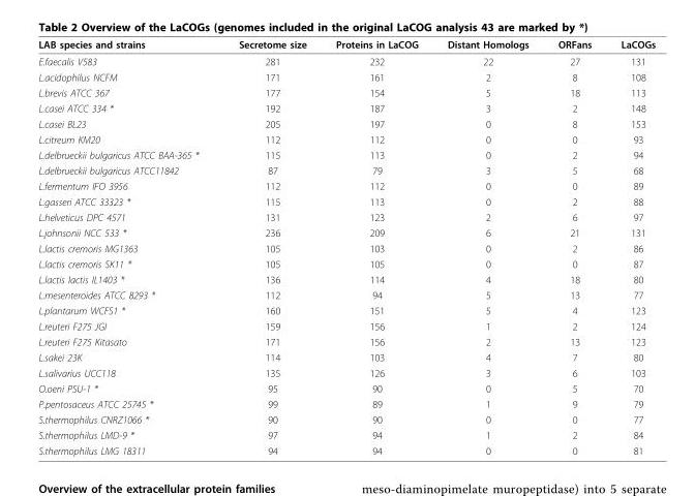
<table><thead><tr><td>LAB species and strains</td><td>Secretome size</td><td>Proteins in LaCOG</td><td>Distant Homologs</td><td>ORFans</td><td>LaCOGs</td></tr></thead><tbody><tr><td>E.faecalis V583</td><td>281</td><td>232</td><td>22</td><td>27</td><td>131</td></tr><tr><td>L.acidophilus NCFM</td><td>171</td><td>161</td><td>2</td><td>8</td><td>108</td></tr><tr><td>L.brevis ATCC 367</td><td>177</td><td>154</td><td>5</td><td>18</td><td>113</td></tr><tr><td>L.casei ATCC 334 *</td><td>192</td><td>187</td><td>3</td><td>2</td><td>148</td></tr><tr><td>L.casei BL23</td><td>205</td><td>197</td><td>0</td><td>8</td><td>153</td></tr><tr><td>L.citreum KM20</td><td>112</td><td>112</td><td>0</td><td>0</td><td>93</td></tr><tr><td>L.delbrueckii bulgaricus ATCC BAA-365 *</td><td>115</td><td>113</td><td>0</td><td>2</td><td>94</td></tr><tr><td>L.delbrueckii bulgaricus ATCC11842</td><td>87</td><td>79</td><td>3</td><td>5</td><td>68</td></tr><tr><td>L.fermentum IFO 3956</td><td>112</td><td>112</td><td>0</td><td>0</td><td>89</td></tr><tr><td>L.gasseri ATCC 33323 *</td><td>115</td><td>113</td><td>0</td><td>2</td><td>88</td></tr><tr><td>L.helveticus DPC 4571</td><td>131</td><td>123</td><td>2</td><td>6</td><td>97</td></tr><tr><td>L.johnsonii NCC 533 *</td><td>236</td><td>209</td><td>6</td><td>21</td><td>131</td></tr><tr><td>L.lactis cremoris MG1363</td><td>105</td><td>103</td><td>0</td><td>2</td><td>86</td></tr><tr><td>L.lactis cremoris SK11 *</td><td>105</td><td>105</td><td>0</td><td>0</td><td>87</td></tr><tr><td>L.lactis lactis IL1403 *</td><td>136</td><td>114</td><td>4</td><td>18</td><td>80</td></tr><tr><td>L.mesenteroides ATCC 8293 *</td><td>112</td><td>94</td><td>5</td><td>13</td><td>77</td></tr><tr><td>L.plantarum WCFS1 *</td><td>160</td><td>151</td><td>5</td><td>4</td><td>123</td></tr><tr><td>L.reuteri F275 JGI</td><td>159</td><td>156</td><td>1</td><td>2</td><td>124</td></tr><tr><td>L.reuteri F275 Kitasato</td><td>171</td><td>156</td><td>2</td><td>13</td><td>123</td></tr><tr><td>L.sakei 23K</td><td>114</td><td>103</td><td>4</td><td>7</td><td>80</td></tr><tr><td>L.salivarius UCC118</td><td>135</td><td>126</td><td>3</td><td>6</td><td>103</td></tr><tr><td>O.oeni PSU-1 *</td><td>95</td><td>90</td><td>0</td><td>5</td><td>70</td></tr><tr><td>P.pentosaceus ATCC 25745 *</td><td>99</td><td>89</td><td>1</td><td>9</td><td>79</td></tr><tr><td>S.thermophilus CNRZ1066 *</td><td>90</td><td>90</td><td>0</td><td>0</td><td>77</td></tr><tr><td>S.thermophilus LMD-9 *</td><td>97</td><td>94</td><td>1</td><td>2</td><td>84</td></tr><tr><td>S.thermophilus LMG 18311</td><td>94</td><td>94</td><td>0</td><td>0</td><td>81</td></tr></tbody></table>